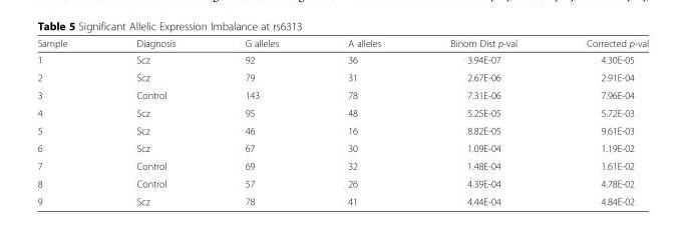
<table><thead><tr><td>Sample</td><td>Diagnosis</td><td>G alleles</td><td>A alleles</td><td>Binom Dist p-val</td><td>Corrected p-val</td></tr></thead><tbody><tr><td>1</td><td>Scz</td><td>92</td><td>36</td><td>3.94E-07</td><td>4.30E-05</td></tr><tr><td>2</td><td>Scz</td><td>79</td><td>31</td><td>2.67E-06</td><td>2.91E-04</td></tr><tr><td>3</td><td>Control</td><td>143</td><td>78</td><td>7.31E-06</td><td>7.96E-04</td></tr><tr><td>4</td><td>Scz</td><td>95</td><td>48</td><td>5.25E-05</td><td>5.72E-03</td></tr><tr><td>5</td><td>Scz</td><td>46</td><td>16</td><td>8.82E-05</td><td>9.61E-03</td></tr><tr><td>6</td><td>Scz</td><td>67</td><td>30</td><td>1.09E-04</td><td>1.19E-02</td></tr><tr><td>7</td><td>Control</td><td>69</td><td>32</td><td>1.48E-04</td><td>1.61E-02</td></tr><tr><td>8</td><td>Control</td><td>57</td><td>26</td><td>4.39E-04</td><td>4.78E-02</td></tr><tr><td>9</td><td>Scz</td><td>78</td><td>41</td><td>4.44E-04</td><td>4.84E-02</td></tr></tbody></table>